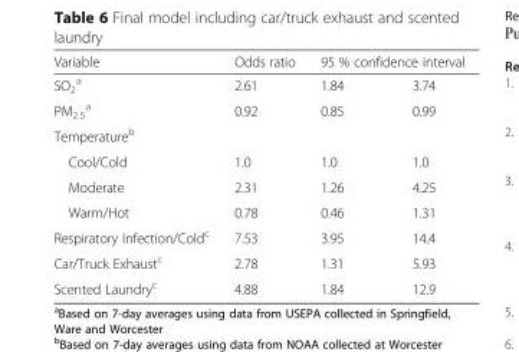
<table><thead><tr><td rowspan="2">Variable SO<sub>2</sub> <sup>a</sup></td><td rowspan="2">Odds ratio 2.61</td><td colspan="2">95 % confidence interval</td></tr><tr><td>1.84</td><td>3.74</td></tr></thead><tbody><tr><td>PM<sub>2.5</sub> <sup>a</sup></td><td>0.92</td><td>0.85</td><td>0.99</td></tr><tr><td colspan="4">Temperature<sup>b</sup></td></tr><tr><td>Cool/Cold</td><td>1.0</td><td>1.0</td><td>1.0</td></tr><tr><td>Moderate</td><td>2.31</td><td>1.26</td><td>4.25</td></tr><tr><td>Warm/Hot</td><td>0.78</td><td>0.46</td><td>1.31</td></tr><tr><td>Respiratory Infection/Cold<sup>c</sup></td><td>7.53</td><td>3.95</td><td>14.4</td></tr><tr><td>Car/Truck Exhaust<sup>c</sup></td><td>2.78</td><td>1.31</td><td>5.93</td></tr><tr><td>Scented Laundry<sup>c</sup></td><td>4.88</td><td>1.84</td><td>12.9</td></tr></tbody></table>